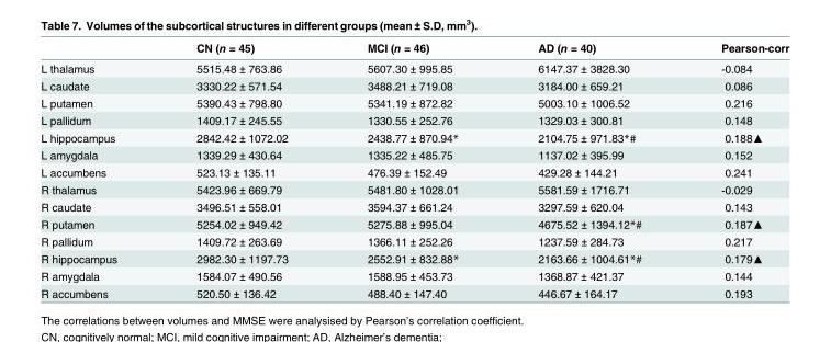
<table><thead><tr><td></td><td>CN (n = 45)</td><td>MCI (n = 46)</td><td>AD (n = 40)</td><td>Pearson-corr</td></tr></thead><tbody><tr><td>L thalamus</td><td>5515.48 ± 763.86</td><td>5607.30 ± 995.85</td><td>6147.37 ± 3828.30</td><td>-0.084</td></tr><tr><td>L caudate</td><td>3330.22 ± 571.54</td><td>3488.21 ± 719.08</td><td>3184.00 ± 659.21</td><td>0.086</td></tr><tr><td>L putamen</td><td>5390.43 ± 798.80</td><td>5341.19 ± 872.82</td><td>5003.10 ± 1006.52</td><td>0.216</td></tr><tr><td>L pallidum</td><td>1409.17 ± 245.55</td><td>1330.55 ± 252.76</td><td>1329.03 ± 300.81</td><td>0.148</td></tr><tr><td>L hippocampus</td><td>2842.42 ± 1072.02</td><td>2438.77 ± 870.94*</td><td>2104.75 ± 971.83*#</td><td>0.188▲</td></tr><tr><td>L amygdala</td><td>1339.29 ± 430.64</td><td>1335.22 ± 485.75</td><td>1137.02 ± 395.99</td><td>0.152</td></tr><tr><td>L accumbens</td><td>523.13 ± 135.11</td><td>476.39 ± 152.49</td><td>429.28 ± 144.21</td><td>0.241</td></tr><tr><td>R thalamus</td><td>5423.96 ± 669.79</td><td>5481.80 ± 1028.01</td><td>5581.59 ± 1716.71</td><td>-0.029</td></tr><tr><td>R caudate</td><td>3496.51 ± 558.01</td><td>3594.37 ± 661.24</td><td>3297.59 ± 620.04</td><td>0.143</td></tr><tr><td>R putamen</td><td>5254.02 ± 949.42</td><td>5275.88 ± 995.04</td><td>4675.52 ± 1394.12*#</td><td>0.187▲</td></tr><tr><td>R pallidum</td><td>1409.72 ± 263.69</td><td>1366.11 ± 252.26</td><td>1237.59 ± 284.73</td><td>0.217</td></tr><tr><td>R hippocampus</td><td>2982.30 ± 1197.73</td><td>2552.91 ± 832.88*</td><td>2163.66 ± 1004.61*#</td><td>0.179▲</td></tr><tr><td>R amygdala</td><td>1584.07 ± 490.56</td><td>1588.95 ± 453.73</td><td>1368.87 ± 421.37</td><td>0.144</td></tr><tr><td>R accumbens</td><td>520.50 ± 136.42</td><td>488.40 ± 147.40</td><td>446.67 ± 164.17</td><td>0.193</td></tr></tbody></table>